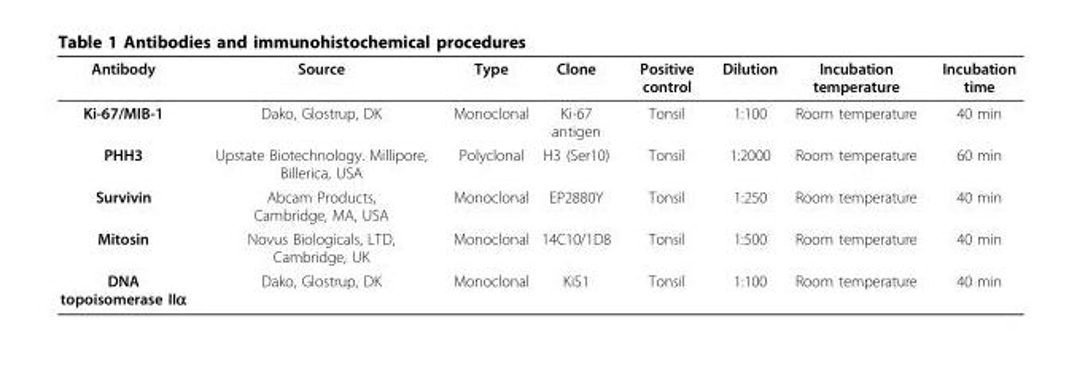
<table><thead><tr><td>Antibody</td><td>Source</td><td>Type</td><td>Clone</td><td>Positive control</td><td>Dilution</td><td>Incubation temperature</td><td>Incubation time</td></tr></thead><tbody><tr><td>Ki-67/MIB-1</td><td>Dako, Glostrup, DK</td><td>Monoclonal</td><td>Ki-67 antigen</td><td>Tonsil</td><td>1:100</td><td>Room temperature</td><td>40 min</td></tr><tr><td>PHH3</td><td>Upstate Biotechnology. Millipore, Billerica, USA</td><td>Polyclonal</td><td>H3 (Ser10)</td><td>Tonsil</td><td>1:2000</td><td>Room temperature</td><td>60 min</td></tr><tr><td>Survivin</td><td>Abcam Products, Cambridge, MA, USA</td><td>Monoclonal</td><td>EP2880Y</td><td>Tonsil</td><td>1:250</td><td>Room temperature</td><td>40 min</td></tr><tr><td>Mitosin</td><td>Novus Biologicals, LTD, Cambridge, UK</td><td>Monoclonal</td><td>14C10/1D8</td><td>Tonsil</td><td>1:500</td><td>Room temperature</td><td>40 min</td></tr><tr><td>DNA topoisomerase IIα</td><td>Dako, Glostrup, DK</td><td>Monoclonal</td><td>KiS1</td><td>Tonsil</td><td>1:100</td><td>Room temperature</td><td>40 min</td></tr></tbody></table>